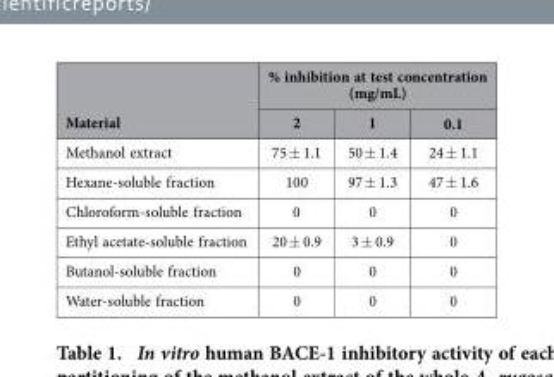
<table><thead><tr><td rowspan="2">Material</td><td colspan="3">% inhibition at test concentration (mg/mL)</td></tr><tr><td>2</td><td>1</td><td>0.1</td></tr></thead><tbody><tr><td>Methanol extract</td><td>75 ± 1.1</td><td>50 ± 1.4</td><td>24 ± 1.1</td></tr><tr><td>Hexane-soluble fraction</td><td>100</td><td>97 ± 1.3</td><td>47 ± 1.6</td></tr><tr><td>Chloroform-soluble fraction</td><td>0</td><td>0</td><td>0</td></tr><tr><td>Ethyl acetate-soluble fraction</td><td>20 ± 0.9</td><td>3 ± 0.9</td><td>0</td></tr><tr><td>Butanol-soluble fraction</td><td>0</td><td>0</td><td>0</td></tr><tr><td>Water-soluble fraction</td><td>0</td><td>0</td><td>0</td></tr></tbody></table>